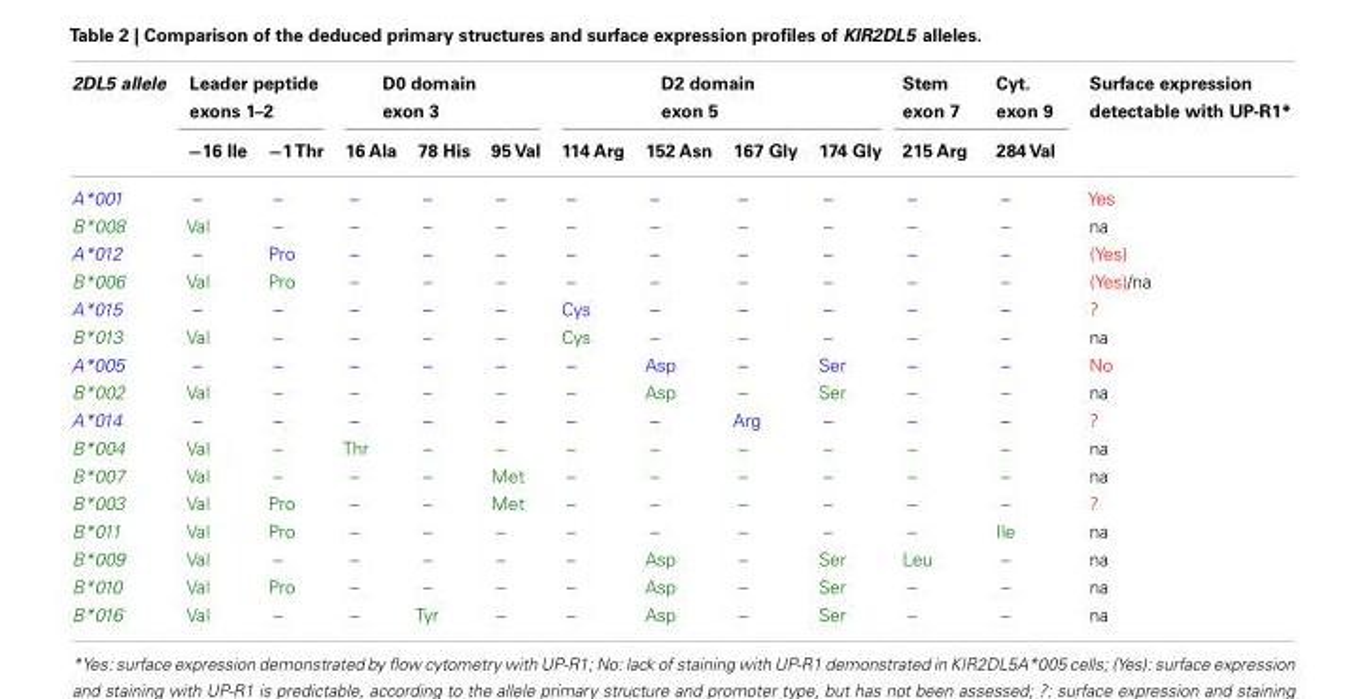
<table><thead><tr><td rowspan="2">2DL5 allele</td><td colspan="2">Leader peptide exons 1–2</td><td colspan="3">D0 domain exon 3</td><td colspan="4">D2 domain exon 5</td><td rowspan="2">Stem exon 7 215 Arg</td><td rowspan="2">Cyt. exon 9 284 Val</td><td rowspan="2">Surface expression detectable with UP-R1*</td></tr><tr><td>−16 Ile</td><td>−1Thr</td><td>16 Ala</td><td>78 His</td><td>95 Val</td><td>114 Arg</td><td>152 Asn</td><td>167 Gly</td><td>174 Gly</td></tr></thead><tbody><tr><td>A*001</td><td>–</td><td>–</td><td>–</td><td>–</td><td>–</td><td>–</td><td>–</td><td>–</td><td>–</td><td>–</td><td>–</td><td>Yes</td></tr><tr><td>B*008</td><td>Val</td><td>–</td><td>–</td><td>–</td><td>–</td><td>–</td><td>–</td><td>–</td><td>–</td><td>–</td><td>–</td><td>na</td></tr><tr><td>A*012</td><td>–</td><td>Pro</td><td>–</td><td>–</td><td>–</td><td>–</td><td>–</td><td>–</td><td>–</td><td>–</td><td>–</td><td>(Yes)</td></tr><tr><td>B*006</td><td>Val</td><td>Pro</td><td>–</td><td>–</td><td>–</td><td>–</td><td>–</td><td>–</td><td>–</td><td>–</td><td>–</td><td>(Yes)/na</td></tr><tr><td>A*015</td><td>–</td><td>–</td><td>–</td><td>–</td><td>–</td><td>Cys</td><td>–</td><td>–</td><td>–</td><td>–</td><td>–</td><td>?</td></tr><tr><td>B*013</td><td>Val</td><td>–</td><td>–</td><td>–</td><td>–</td><td>Cys</td><td>–</td><td>–</td><td>–</td><td>–</td><td>–</td><td>na</td></tr><tr><td>A*005</td><td>–</td><td>–</td><td>–</td><td>–</td><td>–</td><td>–</td><td>Asp</td><td>–</td><td>Ser</td><td>–</td><td>–</td><td>No</td></tr><tr><td>B*002</td><td>Val</td><td>–</td><td>–</td><td>–</td><td>–</td><td>–</td><td>Asp</td><td>–</td><td>Ser</td><td>–</td><td>–</td><td>na</td></tr><tr><td>A*014</td><td>–</td><td>–</td><td>–</td><td>–</td><td>–</td><td>–</td><td>–</td><td>Arg</td><td>–</td><td>–</td><td>–</td><td>?</td></tr><tr><td>B*004</td><td>Val</td><td>–</td><td>Thr</td><td>–</td><td>–</td><td>–</td><td>–</td><td>–</td><td>–</td><td>–</td><td>–</td><td>na</td></tr><tr><td>B*007</td><td>Val</td><td>–</td><td>–</td><td>–</td><td>Met</td><td>–</td><td>–</td><td>–</td><td>–</td><td>–</td><td>–</td><td>na</td></tr><tr><td>B*003</td><td>Val</td><td>Pro</td><td>–</td><td>–</td><td>Met</td><td>–</td><td>–</td><td>–</td><td>–</td><td>–</td><td>–</td><td>?</td></tr><tr><td>B*011</td><td>Val</td><td>Pro</td><td>–</td><td>–</td><td>–</td><td>–</td><td>–</td><td>–</td><td>–</td><td>–</td><td>Ile</td><td>na</td></tr><tr><td>B*009</td><td>Val</td><td>–</td><td>–</td><td>–</td><td>–</td><td>–</td><td>Asp</td><td>–</td><td>Ser</td><td>Leu</td><td>–</td><td>na</td></tr><tr><td>B*010</td><td>Val</td><td>Pro</td><td>–</td><td>–</td><td>–</td><td>–</td><td>Asp</td><td>–</td><td>Ser</td><td>–</td><td>–</td><td>na</td></tr><tr><td>B*016</td><td>Val</td><td>–</td><td>–</td><td>Tyr</td><td>–</td><td>–</td><td>Asp</td><td>–</td><td>Ser</td><td>–</td><td>–</td><td>na</td></tr></tbody></table>